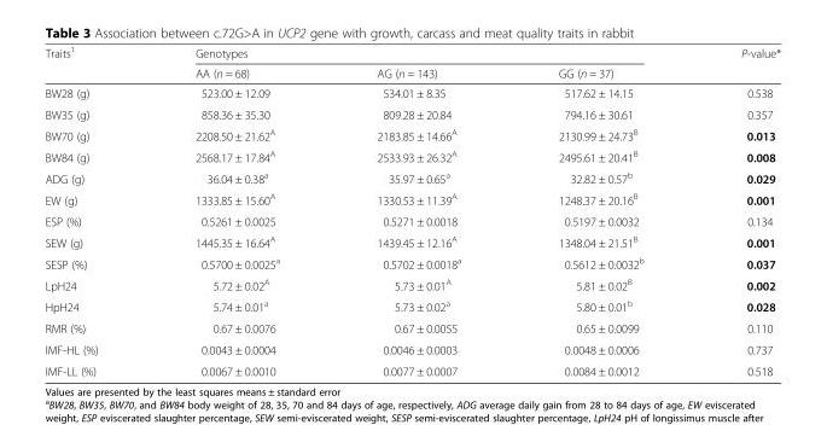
<table><thead><tr><td rowspan="2">Traits<sup>1</sup></td><td colspan="3">Genotypes</td><td rowspan="2">P-value*</td></tr><tr><td>AA (n = 68)</td><td>AG (n = 143)</td><td>GG (n = 37)</td></tr></thead><tbody><tr><td>BW28 (g)</td><td>523.00 ± 12.09</td><td>534.01 ± 8.35</td><td>517.62 ± 14.15</td><td>0.538</td></tr><tr><td>BW35 (g)</td><td>858.36 ± 35.30</td><td>809.28 ± 20.84</td><td>794.16 ± 30.61</td><td>0.357</td></tr><tr><td>BW70 (g)</td><td>2208.50 ± 21.62<sup>A</sup></td><td>2183.85 ± 14.66<sup>A</sup></td><td>2130.99 ± 24.73<sup>B</sup></td><td>0.013</td></tr><tr><td>BW84 (g)</td><td>2568.17 ± 17.84<sup>A</sup></td><td>2533.93 ± 26.32<sup>A</sup></td><td>2495.61 ± 20.41<sup>B</sup></td><td>0.008</td></tr><tr><td>ADG (g)</td><td>36.04 ± 0.38<sup>a</sup></td><td>35.97 ± 0.65<sup>a</sup></td><td>32.82 ± 0.57<sup>b</sup></td><td>0.029</td></tr><tr><td>EW (g)</td><td>1333.85 ± 15.60<sup>A</sup></td><td>1330.53 ± 11.39<sup>A</sup></td><td>1248.37 ± 20.16<sup>B</sup></td><td>0.001</td></tr><tr><td>ESP (%)</td><td>0.5261 ± 0.0025</td><td>0.5271 ± 0.0018</td><td>0.5197 ± 0.0032</td><td>0.134</td></tr><tr><td>SEW (g)</td><td>1445.35 ± 16.64<sup>A</sup></td><td>1439.45 ± 12.16<sup>A</sup></td><td>1348.04 ± 21.51<sup>B</sup></td><td>0.001</td></tr><tr><td>SESP (%)</td><td>0.5700 ± 0.0025<sup>a</sup></td><td>0.5702 ± 0.0018<sup>a</sup></td><td>0.5612 ± 0.0032<sup>b</sup></td><td>0.037</td></tr><tr><td>LpH24</td><td>5.72 ± 0.02<sup>A</sup></td><td>5.73 ± 0.01<sup>A</sup></td><td>5.81 ± 0.02<sup>B</sup></td><td>0.002</td></tr><tr><td>HpH24</td><td>5.74 ± 0.01<sup>a</sup></td><td>5.73 ± 0.02<sup>a</sup></td><td>5.80 ± 0.01<sup>b</sup></td><td>0.028</td></tr><tr><td>RMR (%)</td><td>0.67 ± 0.0076</td><td>0.67 ± 0.0055</td><td>0.65 ± 0.0099</td><td>0.110</td></tr><tr><td>IMF-HL (%)</td><td>0.0043 ± 0.0004</td><td>0.0046 ± 0.0003</td><td>0.0048 ± 0.0006</td><td>0.737</td></tr><tr><td>IMF-LL (%)</td><td>0.0067 ± 0.0010</td><td>0.0077 ± 0.0007</td><td>0.0084 ± 0.0012</td><td>0.518</td></tr></tbody></table>